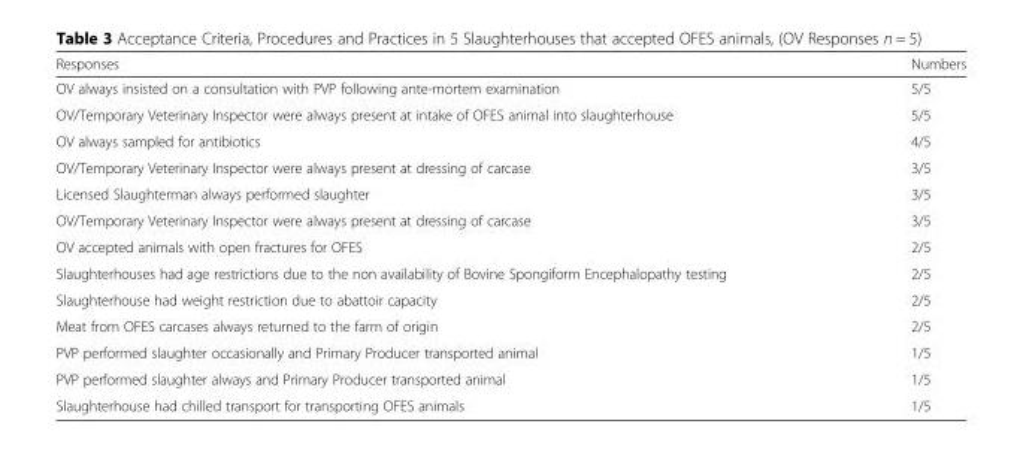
<table><thead><tr><td>Responses</td><td>Numbers</td></tr></thead><tbody><tr><td>OV always insisted on a consultation with PVP following ante-mortem examination</td><td>5/5</td></tr><tr><td>OV/Temporary Veterinary Inspector were always present at intake of OFES animal into slaughterhouse</td><td>5/5</td></tr><tr><td>OV always sampled for antibiotics</td><td>4/5</td></tr><tr><td>OV/Temporary Veterinary Inspector were always present at dressing of carcase</td><td>3/5</td></tr><tr><td>Licensed Slaughterman always performed slaughter</td><td>3/5</td></tr><tr><td>OV/Temporary Veterinary Inspector were always present at dressing of carcase</td><td>3/5</td></tr><tr><td>OV accepted animals with open fractures for OFES</td><td>2/5</td></tr><tr><td>Slaughterhouses had age restrictions due to the non availability of Bovine Spongiform Encephalopathy testing</td><td>2/5</td></tr><tr><td>Slaughterhouse had weight restriction due to abattoir capacity</td><td>2/5</td></tr><tr><td>Meat from OFES carcases always returned to the farm of origin</td><td>2/5</td></tr><tr><td>PVP performed slaughter occasionally and Primary Producer transported animal</td><td>1/5</td></tr><tr><td>PVP performed slaughter always and Primary Producer transported animal</td><td>1/5</td></tr><tr><td>Slaughterhouse had chilled transport for transporting OFES animals</td><td>1/5</td></tr></tbody></table>